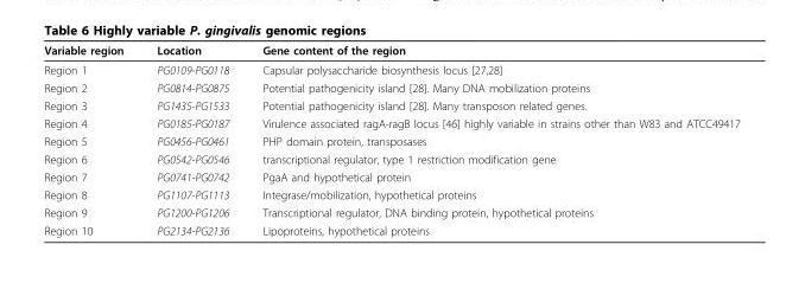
<table><thead><tr><td>Variable region</td><td>Location</td><td>Gene content of the region</td></tr></thead><tbody><tr><td>Region 1</td><td>PG0109-PG0118</td><td>Capsular polysaccharide biosynthesis locus [27,28]</td></tr><tr><td>Region 2</td><td>PG0814-PG0875</td><td>Potential pathogenicity island [28]. Many DNA mobilization proteins</td></tr><tr><td>Region 3</td><td>PG1435-PG1533</td><td>Potential pathogenicity island [28]. Many transposon related genes.</td></tr><tr><td>Region 4</td><td>PG0185-PG0187</td><td>Virulence associated ragA-ragB locus [46] highly variable in strains other than W83 and ATCC49417</td></tr><tr><td>Region 5</td><td>PG0456-PG0461</td><td>PHP domain protein, transposases</td></tr><tr><td>Region 6</td><td>PG0542-PG0546</td><td>transcriptional regulator, type 1 restriction modification gene</td></tr><tr><td>Region 7</td><td>PG0741-PG0742</td><td>PgaA and hypothetical protein</td></tr><tr><td>Region 8</td><td>PG1107-PG1113</td><td>Integrase/mobilization, hypothetical proteins</td></tr><tr><td>Region 9</td><td>PG1200-PG1206</td><td>Transcriptional regulator, DNA binding protein, hypothetical proteins</td></tr><tr><td>Region 10</td><td>PG2134-PG2136</td><td>Lipoproteins, hypothetical proteins</td></tr></tbody></table>